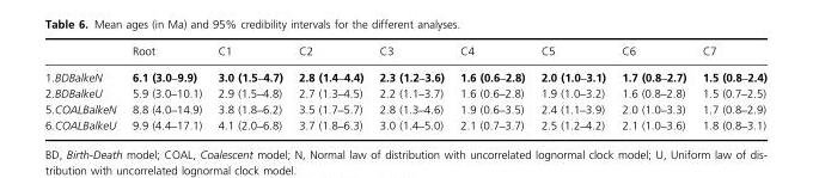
<table><thead><tr><td></td><td>Root</td><td>C1</td><td>C2</td><td>C3</td><td>C4</td><td>C5</td><td>C6</td><td>C7</td></tr></thead><tbody><tr><td>1.BDBalkeN</td><td>6.1 (3.0–9.9)</td><td>3.0 (1.5–4.7)</td><td>2.8 (1.4–4.4)</td><td>2.3 (1.2–3.6)</td><td>1.6 (0.6–2.8)</td><td>2.0 (1.0–3.1)</td><td>1.7 (0.8–2.7)</td><td>1.5 (0.8–2.4)</td></tr><tr><td>2.BDBalkeU</td><td>5.9 (3.0–10.1)</td><td>2.9 (1.5–4.8)</td><td>2.7 (1.3–4.5)</td><td>2.2 (1.1–3.7)</td><td>1.6 (0.6–2.8)</td><td>1.9 (1.0–3.2)</td><td>1.6 (0.8–2.8)</td><td>1.5 (0.7–2.5)</td></tr><tr><td>5.COALBalkeN</td><td>8.8 (4.0–14.9)</td><td>3.8 (1.8–6.2)</td><td>3.5 (1.7–5.7)</td><td>2.8 (1.3–4.6)</td><td>1.9 (0.6–3.5)</td><td>2.4 (1.1–3.9)</td><td>2.0 (1.0–3.3)</td><td>1.7 (0.8–2.9)</td></tr><tr><td>6.COALBalkeU</td><td>9.9 (4.4–17.1)</td><td>4.1 (2.0–6.8)</td><td>3.7 (1.8–6.3)</td><td>3.0 (1.4–5.0)</td><td>2.1 (0.7–3.7)</td><td>2.5 (1.2–4.2)</td><td>2.1 (1.0–3.6)</td><td>1.8 (0.8–3.1)</td></tr></tbody></table>